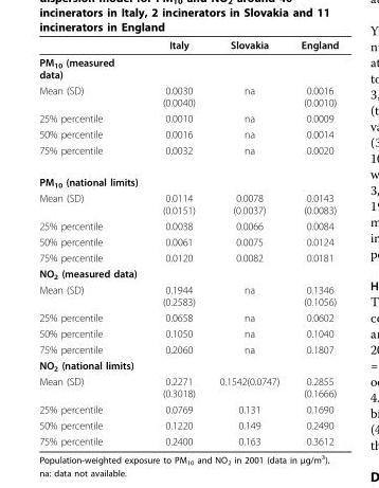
<table><thead><tr><td></td><td>Italy</td><td>Slovakia</td><td>England</td></tr></thead><tbody><tr><td colspan="4">PM<sub>10</sub> (measured data)</td></tr><tr><td>Mean (SD)</td><td>0.0030 (0.0040)</td><td>na</td><td>0.0016 (0.0010)</td></tr><tr><td>25% percentile</td><td>0.0010</td><td>na</td><td>0.0009</td></tr><tr><td>50% percentile</td><td>0.0016</td><td>na</td><td>0.0014</td></tr><tr><td>75% percentile</td><td>0.0032</td><td>na</td><td>0.0020</td></tr><tr><td colspan="4">PM<sub>10</sub> (national limits)</td></tr><tr><td>Mean (SD)</td><td>0.0114 (0.0151)</td><td>0.0078 (0.0037)</td><td>0.0143 (0.0083)</td></tr><tr><td>25% percentile</td><td>0.0038</td><td>0.0066</td><td>0.0084</td></tr><tr><td>50% percentile</td><td>0.0061</td><td>0.0075</td><td>0.0124</td></tr><tr><td>75% percentile</td><td>0.0120</td><td>0.0082</td><td>0.0181</td></tr><tr><td colspan="4">NO<sub>2</sub> (measured data)</td></tr><tr><td>Mean (SD)</td><td>0.1944 (0.2583)</td><td>na</td><td>0.1346 (0.1056)</td></tr><tr><td>25% percentile</td><td>0.0658</td><td>na</td><td>0.0602</td></tr><tr><td>50% percentile</td><td>0.1050</td><td>na</td><td>0.1040</td></tr><tr><td>75% percentile</td><td>0.2060</td><td>na</td><td>0.1807</td></tr><tr><td colspan="4">NO<sub>2</sub> (national limits)</td></tr><tr><td>Mean (SD)</td><td>0.2271 (0.3018)</td><td>0.1542(0.0747)</td><td>0.2855 (0.1666)</td></tr><tr><td>25% percentile</td><td>0.0769</td><td>0.131</td><td>0.1690</td></tr><tr><td>50% percentile</td><td>0.1220</td><td>0.149</td><td>0.2490</td></tr><tr><td>75% percentile</td><td>0.2400</td><td>0.163</td><td>0.3612</td></tr></tbody></table>